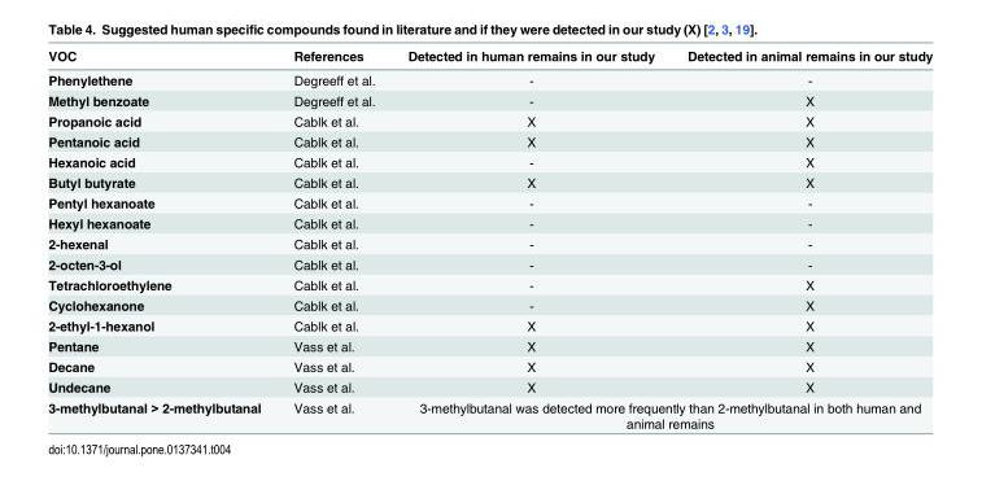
<table><thead><tr><td>VOC</td><td>References</td><td>Detected in human remains in our study</td><td>Detected in animal remains in our study</td></tr></thead><tbody><tr><td>Phenylethene</td><td>Degreeff et al.</td><td>-</td><td>-</td></tr><tr><td>Methyl benzoate</td><td>Degreeff et al.</td><td>-</td><td>X</td></tr><tr><td>Propanoic acid</td><td>Cablk et al.</td><td>X</td><td>X</td></tr><tr><td>Pentanoic acid</td><td>Cablk et al.</td><td>X</td><td>X</td></tr><tr><td>Hexanoic acid</td><td>Cablk et al.</td><td>-</td><td>X</td></tr><tr><td>Butyl butyrate</td><td>Cablk et al.</td><td>X</td><td>X</td></tr><tr><td>Pentyl hexanoate</td><td>Cablk et al.</td><td>-</td><td>-</td></tr><tr><td>Hexyl hexanoate</td><td>Cablk et al.</td><td>-</td><td>-</td></tr><tr><td>2-hexenal</td><td>Cablk et al.</td><td>-</td><td>-</td></tr><tr><td>2-octen-3-ol</td><td>Cablk et al.</td><td>-</td><td>-</td></tr><tr><td>Tetrachloroethylene</td><td>Cablk et al.</td><td>-</td><td>X</td></tr><tr><td>Cyclohexanone</td><td>Cablk et al.</td><td>-</td><td>X</td></tr><tr><td>2-ethyl-1-hexanol</td><td>Cablk et al.</td><td>X</td><td>X</td></tr><tr><td>Pentane</td><td>Vass et al.</td><td>X</td><td>X</td></tr><tr><td>Decane</td><td>Vass et al.</td><td>X</td><td>X</td></tr><tr><td>Undecane</td><td>Vass et al.</td><td>X</td><td>X</td></tr><tr><td>3-methylbutanal &gt; 2-methylbutanal</td><td>Vass et al.</td><td colspan="2">3-methylbutanal was detected more frequently than 2-methylbutanal in both human and animal remains</td></tr></tbody></table>